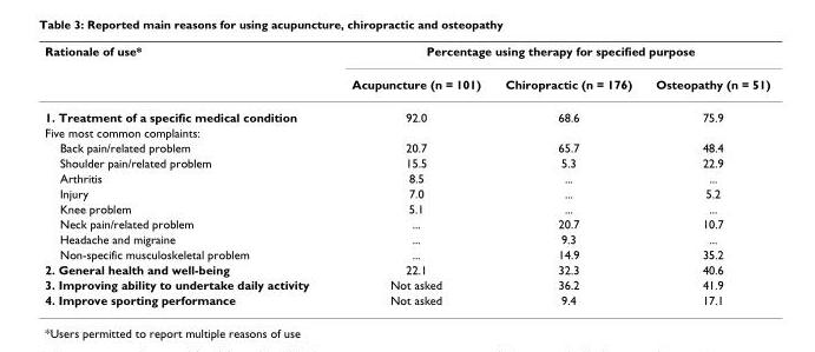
<table><thead><tr><td rowspan="2">Rationale of use*</td><td colspan="3">Percentage using therapy for specified purpose</td></tr><tr><td>Acupuncture (n = 101)</td><td>Chiropractic (n = 176)</td><td>Osteopathy (n = 51)</td></tr></thead><tbody><tr><td>1. Treatment of a specific medical condition</td><td>92.0</td><td>68.6</td><td>75.9</td></tr><tr><td colspan="4">Five most common complaints:</td></tr><tr><td>Back pain/related problem</td><td>20.7</td><td>65.7</td><td>48.4</td></tr><tr><td>Shoulder pain/related problem</td><td>15.5</td><td>5.3</td><td>22.9</td></tr><tr><td>Arthritis</td><td>8.5</td><td>...</td><td>...</td></tr><tr><td>Injury</td><td>7.0</td><td>...</td><td>5.2</td></tr><tr><td>Knee problem</td><td>5.1</td><td>...</td><td>...</td></tr><tr><td>Neck pain/related problem</td><td>...</td><td>20.7</td><td>10.7</td></tr><tr><td>Headache and migraine</td><td>...</td><td>9.3</td><td>...</td></tr><tr><td>Non-specific musculoskeletal problem</td><td>...</td><td>14.9</td><td>35.2</td></tr><tr><td>2. General health and well-being</td><td>22.1</td><td>32.3</td><td>40.6</td></tr><tr><td>3. Improving ability to undertake daily activity</td><td>Not asked</td><td>36.2</td><td>41.9</td></tr><tr><td>4. Improve sporting performance</td><td>Not asked</td><td>9.4</td><td>17.1</td></tr></tbody></table>